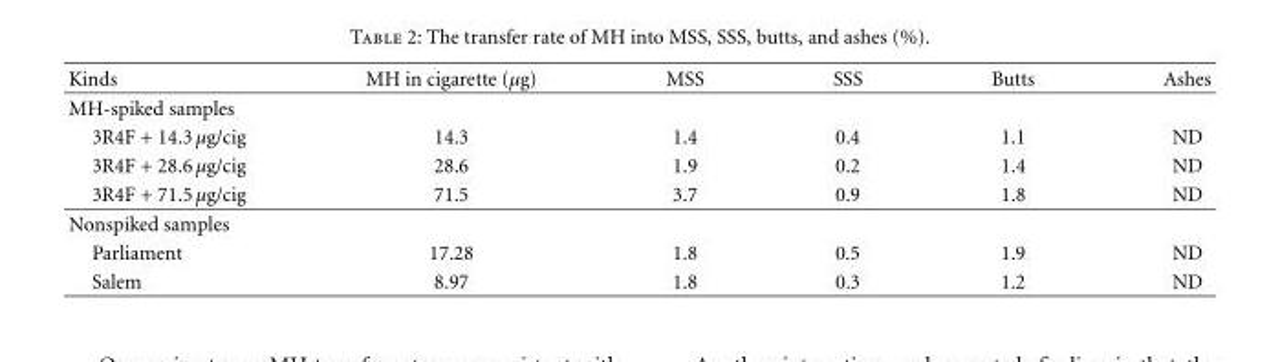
<table><thead><tr><td>Kinds</td><td>MH in cigarette (µg)</td><td>MSS</td><td>SSS</td><td>Butts</td><td>Ashes</td></tr></thead><tbody><tr><td colspan="6">MH-spiked samples</td></tr><tr><td>3R4F + 14.3 µg/cig</td><td>14.3</td><td>1.4</td><td>0.4</td><td>1.1</td><td>ND</td></tr><tr><td>3R4F + 28.6 µg/cig</td><td>28.6</td><td>1.9</td><td>0.2</td><td>1.4</td><td>ND</td></tr><tr><td>3R4F + 71.5 µg/cig</td><td>71.5</td><td>3.7</td><td>0.9</td><td>1.8</td><td>ND</td></tr><tr><td colspan="6">Nonspiked samples</td></tr><tr><td>Parliament</td><td>17.28</td><td>1.8</td><td>0.5</td><td>1.9</td><td>ND</td></tr><tr><td>Salem</td><td>8.97</td><td>1.8</td><td>0.3</td><td>1.2</td><td>ND</td></tr></tbody></table>